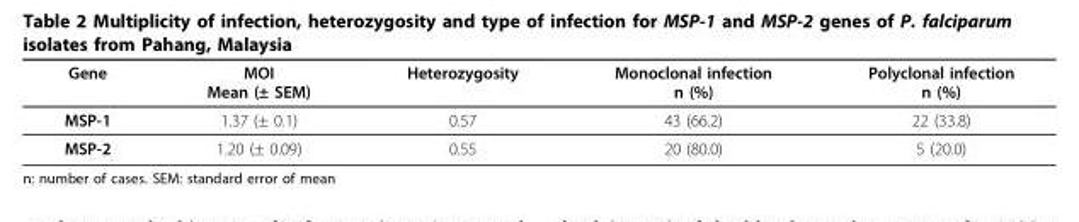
<table><thead><tr><td>Gene</td><td>MOI Mean (± SEM)</td><td>Heterozygosity</td><td>Monoclonal infection n (%)</td><td>Polyclonal infection n (%)</td></tr></thead><tbody><tr><td>MSP-1</td><td>1.37 (± 0.1)</td><td>0.57</td><td>43 (66.2)</td><td>22 (33.8)</td></tr><tr><td>MSP-2</td><td>1.20 (± 0.09)</td><td>0.55</td><td>20 (80.0)</td><td>5 (20.0)</td></tr></tbody></table>